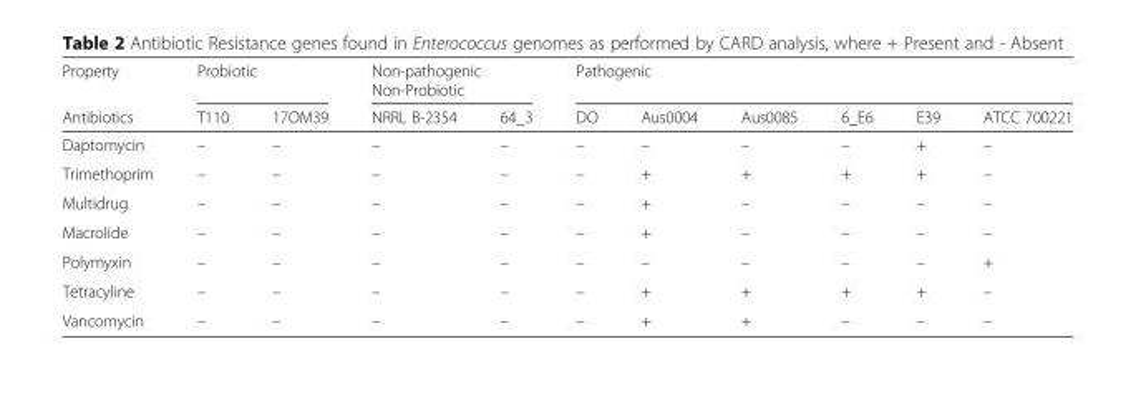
<table><thead><tr><td rowspan="2">Property Antibiotics</td><td colspan="2">Probiotic</td><td colspan="2">Non-pathogenic Non-Probiotic</td><td colspan="6">Pathogenic</td></tr><tr><td>T110</td><td>17OM39</td><td>NRRL B-2354</td><td>64_3</td><td>DO</td><td>Aus0004</td><td>Aus0085</td><td>6_E6</td><td>E39</td><td>ATCC 700221</td></tr></thead><tbody><tr><td>Daptomycin</td><td>–</td><td>–</td><td>–</td><td>–</td><td>–</td><td>–</td><td>–</td><td>–</td><td>+</td><td>–</td></tr><tr><td>Trimethoprim</td><td>–</td><td>–</td><td>–</td><td>–</td><td>–</td><td>+</td><td>+</td><td>+</td><td>+</td><td>–</td></tr><tr><td>Multidrug</td><td>–</td><td>–</td><td>–</td><td>–</td><td>–</td><td>+</td><td>–</td><td>–</td><td>–</td><td>–</td></tr><tr><td>Macrolide</td><td>–</td><td>–</td><td>–</td><td>–</td><td>–</td><td>+</td><td>–</td><td>–</td><td>–</td><td>–</td></tr><tr><td>Polymyxin</td><td>–</td><td>–</td><td>–</td><td>–</td><td>–</td><td>–</td><td>–</td><td>–</td><td>–</td><td>+</td></tr><tr><td>Tetracyline</td><td>–</td><td>–</td><td>–</td><td>–</td><td>–</td><td>+</td><td>+</td><td>+</td><td>+</td><td>–</td></tr><tr><td>Vancomycin</td><td>–</td><td>–</td><td>–</td><td>–</td><td>–</td><td>+</td><td>+</td><td>–</td><td>–</td><td>–</td></tr></tbody></table>